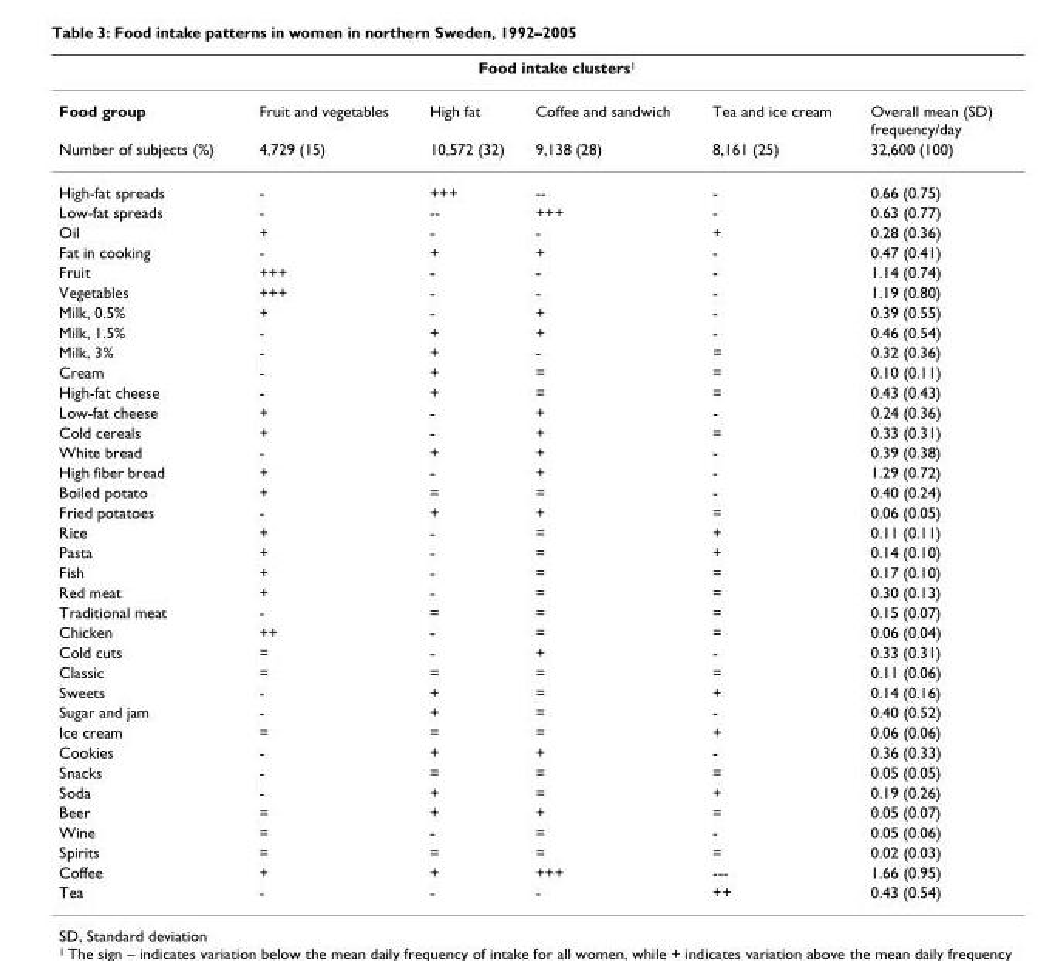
<table><thead><tr><td rowspan="2">Food group</td><td colspan="4">Food intake clusters<sup>1</sup></td><td rowspan="2">Overall mean (SD) frequency/day</td></tr><tr><td>Fruit and vegetables</td><td>High fat</td><td>Coffee and sandwich</td><td>Tea and ice cream</td></tr></thead><tbody><tr><td>Number of subjects (%)</td><td>4,729 (15)</td><td>10,572 (32)</td><td>9,138 (28)</td><td>8,161 (25)</td><td>32,600 (100)</td></tr><tr><td>High-fat spreads</td><td>-</td><td>+++</td><td>--</td><td>-</td><td>0.66 (0.75)</td></tr><tr><td>Low-fat spreads</td><td>-</td><td>--</td><td>+++</td><td>-</td><td>0.63 (0.77)</td></tr><tr><td>Oil</td><td>+</td><td>-</td><td>-</td><td>+</td><td>0.28 (0.36)</td></tr><tr><td>Fat in cooking</td><td>-</td><td>+</td><td>+</td><td>-</td><td>0.47 (0.41)</td></tr><tr><td>Fruit</td><td>+++</td><td>-</td><td>-</td><td>-</td><td>1.14 (0.74)</td></tr><tr><td>Vegetables</td><td>+++</td><td>-</td><td>-</td><td>-</td><td>1.19 (0.80)</td></tr><tr><td>Milk, 0.5%</td><td>+</td><td>-</td><td>+</td><td>-</td><td>0.39 (0.55)</td></tr><tr><td>Milk, 1.5%</td><td>-</td><td>+</td><td>+</td><td>-</td><td>0.46 (0.54)</td></tr><tr><td>Milk, 3%</td><td>-</td><td>+</td><td>-</td><td>=</td><td>0.32 (0.36)</td></tr><tr><td>Cream</td><td>-</td><td>+</td><td>=</td><td>=</td><td>0.10 (0.11)</td></tr><tr><td>High-fat cheese</td><td>-</td><td>+</td><td>=</td><td>=</td><td>0.43 (0.43)</td></tr><tr><td>Low-fat cheese</td><td>+</td><td>-</td><td>+</td><td>-</td><td>0.24 (0.36)</td></tr><tr><td>Cold cereals</td><td>+</td><td>-</td><td>+</td><td>=</td><td>0.33 (0.31)</td></tr><tr><td>White bread</td><td>-</td><td>+</td><td>+</td><td>-</td><td>0.39 (0.38)</td></tr><tr><td>High fiber bread</td><td>+</td><td>-</td><td>+</td><td>-</td><td>1.29 (0.72)</td></tr><tr><td>Boiled potato</td><td>+</td><td>=</td><td>=</td><td>-</td><td>0.40 (0.24)</td></tr><tr><td>Fried potatoes</td><td>-</td><td>+</td><td>+</td><td>=</td><td>0.06 (0.05)</td></tr><tr><td>Rice</td><td>+</td><td>-</td><td>=</td><td>+</td><td>0.11 (0.11)</td></tr><tr><td>Pasta</td><td>+</td><td>-</td><td>=</td><td>+</td><td>0.14 (0.10)</td></tr><tr><td>Fish</td><td>+</td><td>-</td><td>=</td><td>=</td><td>0.17 (0.10)</td></tr><tr><td>Red meat</td><td>+</td><td>-</td><td>=</td><td>=</td><td>0.30 (0.13)</td></tr><tr><td>Traditional meat</td><td>-</td><td>=</td><td>=</td><td>=</td><td>0.15 (0.07)</td></tr><tr><td>Chicken</td><td>++</td><td>-</td><td>=</td><td>=</td><td>0.06 (0.04)</td></tr><tr><td>Cold cuts</td><td>=</td><td>-</td><td>+</td><td>-</td><td>0.33 (0.31)</td></tr><tr><td>Classic</td><td>=</td><td>=</td><td>=</td><td>=</td><td>0.11 (0.06)</td></tr><tr><td>Sweets</td><td>-</td><td>+</td><td>=</td><td>+</td><td>0.14 (0.16)</td></tr><tr><td>Sugar and jam</td><td>-</td><td>+</td><td>=</td><td>-</td><td>0.40 (0.52)</td></tr><tr><td>Ice cream</td><td>=</td><td>=</td><td>=</td><td>+</td><td>0.06 (0.06)</td></tr><tr><td>Cookies</td><td>-</td><td>+</td><td>+</td><td>-</td><td>0.36 (0.33)</td></tr><tr><td>Snacks</td><td>-</td><td>=</td><td>=</td><td>=</td><td>0.05 (0.05)</td></tr><tr><td>Soda</td><td>-</td><td>+</td><td>=</td><td>+</td><td>0.19 (0.26)</td></tr><tr><td>Beer</td><td>=</td><td>+</td><td>+</td><td>=</td><td>0.05 (0.07)</td></tr><tr><td>Wine</td><td>=</td><td>-</td><td>=</td><td>-</td><td>0.05 (0.06)</td></tr><tr><td>Spirits</td><td>=</td><td>=</td><td>=</td><td>=</td><td>0.02 (0.03)</td></tr><tr><td>Coffee</td><td>+</td><td>+</td><td>+++</td><td>---</td><td>1.66 (0.95)</td></tr><tr><td>Tea</td><td>-</td><td>-</td><td>-</td><td>++</td><td>0.43 (0.54)</td></tr></tbody></table>